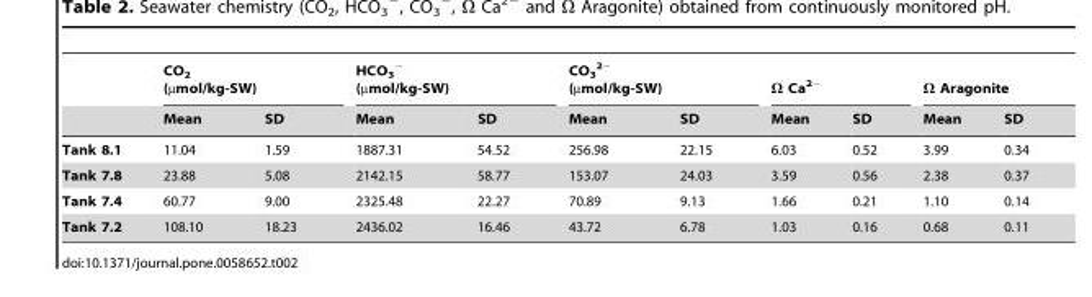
<table><thead><tr><td rowspan="2"></td><td colspan="2">CO<sub>2</sub> (µmol/kg-SW)</td><td colspan="2">HCO<sub>3</sub> <sup>−</sup> (µmol/kg-SW)</td><td colspan="2">CO<sub>3</sub> <sup>2−</sup> (µmol/kg-SW)</td><td colspan="2">Ω Ca<sup>2−</sup></td><td colspan="2">Ω Aragonite</td></tr><tr><td>Mean</td><td>SD</td><td>Mean</td><td>SD</td><td>Mean</td><td>SD</td><td>Mean</td><td>SD</td><td>Mean</td><td>SD</td></tr></thead><tbody><tr><td>Tank 8.1</td><td>11.04</td><td>1.59</td><td>1887.31</td><td>54.52</td><td>256.98</td><td>22.15</td><td>6.03</td><td>0.52</td><td>3.99</td><td>0.34</td></tr><tr><td>Tank 7.8</td><td>23.88</td><td>5.08</td><td>2142.15</td><td>58.77</td><td>153.07</td><td>24.03</td><td>3.59</td><td>0.56</td><td>2.38</td><td>0.37</td></tr><tr><td>Tank 7.4</td><td>60.77</td><td>9.00</td><td>2325.48</td><td>22.27</td><td>70.89</td><td>9.13</td><td>1.66</td><td>0.21</td><td>1.10</td><td>0.14</td></tr><tr><td>Tank 7.2</td><td>108.10</td><td>18.23</td><td>2436.02</td><td>16.46</td><td>43.72</td><td>6.78</td><td>1.03</td><td>0.16</td><td>0.68</td><td>0.11</td></tr></tbody></table>